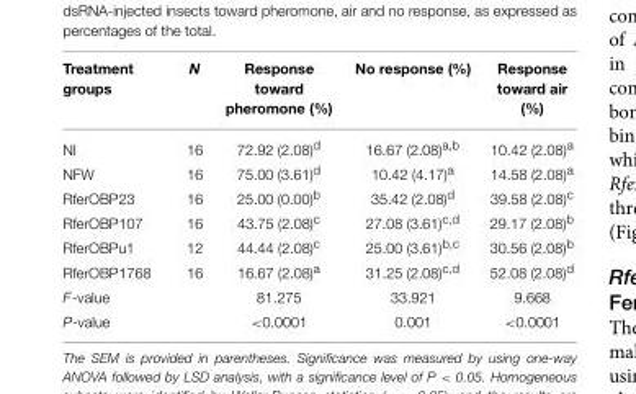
<table><thead><tr><td>Treatment groups</td><td>N</td><td>Response toward pheromone (%)</td><td>No response (%)</td><td>Response toward air (%)</td></tr></thead><tbody><tr><td>NI</td><td>16</td><td>72.92 (2.08)<sup>d</sup></td><td>16.67 (2.08)<sup>a,b</sup></td><td>10.42 (2.08)<sup>a</sup></td></tr><tr><td>NFW</td><td>16</td><td>75.00 (3.61)<sup>d</sup></td><td>10.42 (4.17)<sup>a</sup></td><td>14.58 (2.08)<sup>a</sup></td></tr><tr><td>RferOBP23</td><td>16</td><td>25.00 (0.00)<sup>b</sup></td><td>35.42 (2.08)<sup>d</sup></td><td>39.58 (2.08)<sup>c</sup></td></tr><tr><td>RferOBP107</td><td>16</td><td>43.75 (2.08)<sup>c</sup></td><td>27.08 (3.61)<sup>c,d</sup></td><td>29.17 (2.08)<sup>b</sup></td></tr><tr><td>RferOBPu1</td><td>12</td><td>44.44 (2.08)<sup>c</sup></td><td>25.00 (3.61)<sup>b,c</sup></td><td>30.56 (2.08)<sup>b</sup></td></tr><tr><td>RferOBP1768</td><td>16</td><td>16.67 (2.08)<sup>a</sup></td><td>31.25 (2.08)<sup>c,d</sup></td><td>52.08 (2.08)<sup>d</sup></td></tr><tr><td>F-value</td><td></td><td>81.275</td><td>33.921</td><td>9.668</td></tr><tr><td>P-value</td><td></td><td>&lt;0.0001</td><td>0.001</td><td>&lt;0.0001</td></tr></tbody></table>